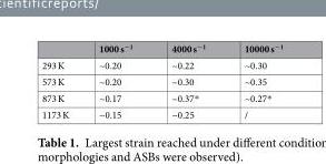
<table><thead><tr><td></td><td>1000 s<sup>−1</sup></td><td>4000 s<sup>−1</sup></td><td>10000 s<sup>−1</sup></td></tr></thead><tbody><tr><td>293 K</td><td>~0.20</td><td>~0.22</td><td>~0.30</td></tr><tr><td>573 K</td><td>~0.20</td><td>~0.30</td><td>~0.35</td></tr><tr><td>873 K</td><td>~0.17</td><td>~0.37*</td><td>~0.27*</td></tr><tr><td>1173 K</td><td>~0.15</td><td>~0.25</td><td>/</td></tr></tbody></table>